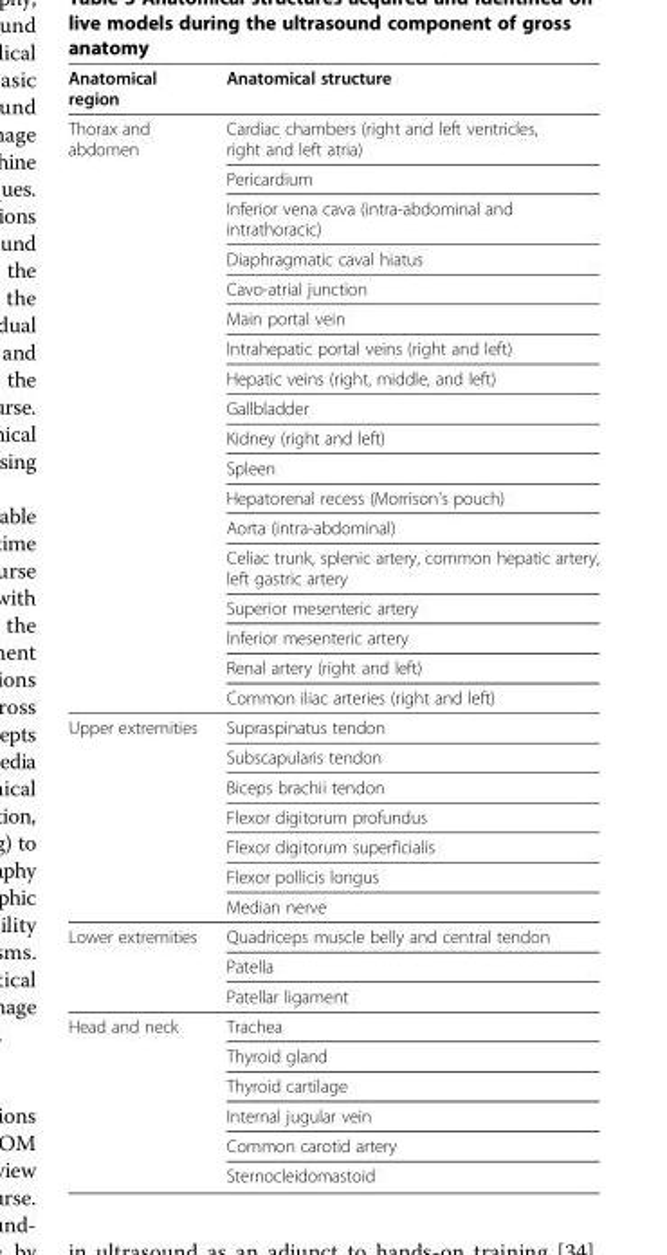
<table><thead><tr><td>Anatomical region</td><td>Anatomical structure</td></tr></thead><tbody><tr><td rowspan="18">Thorax and abdomen</td><td>Cardiac chambers (right and left ventricles, right and left atria)</td></tr><tr><td>Pericardium</td></tr><tr><td>Inferior vena cava (intra-abdominal and intrathoracic)</td></tr><tr><td>Diaphragmatic caval hiatus</td></tr><tr><td>Cavo-atrial junction</td></tr><tr><td>Main portal vein</td></tr><tr><td>Intrahepatic portal veins (right and left)</td></tr><tr><td>Hepatic veins (right, middle, and left)</td></tr><tr><td>Gallbladder</td></tr><tr><td>Kidney (right and left)</td></tr><tr><td>Spleen</td></tr><tr><td>Hepatorenal recess (Morrison&#x27;s pouch)</td></tr><tr><td>Aorta (intra-abdominal)</td></tr><tr><td>Celiac trunk, splenic artery, common hepatic artery, left gastric artery</td></tr><tr><td>Superior mesenteric artery</td></tr><tr><td>Inferior mesenteric artery</td></tr><tr><td>Renal artery (right and left)</td></tr><tr><td>Common iliac arteries (right and left)</td></tr><tr><td rowspan="7">Upper extremities</td><td>Supraspinatus tendon</td></tr><tr><td>Subscapularis tendon</td></tr><tr><td>Biceps brachii tendon</td></tr><tr><td>Flexor digitorum profundus</td></tr><tr><td>Flexor digitorum superficialis</td></tr><tr><td>Flexor pollicis longus</td></tr><tr><td>Median nerve</td></tr><tr><td rowspan="3">Lower extremities</td><td>Quadriceps muscle belly and central tendon</td></tr><tr><td>Patella</td></tr><tr><td>Patellar ligament</td></tr><tr><td rowspan="6">Head and neck</td><td>Trachea</td></tr><tr><td>Thyroid gland</td></tr><tr><td>Thyroid cartilage</td></tr><tr><td>Internal jugular vein</td></tr><tr><td>Common carotid artery</td></tr><tr><td>Sternocleidomastoid</td></tr></tbody></table>